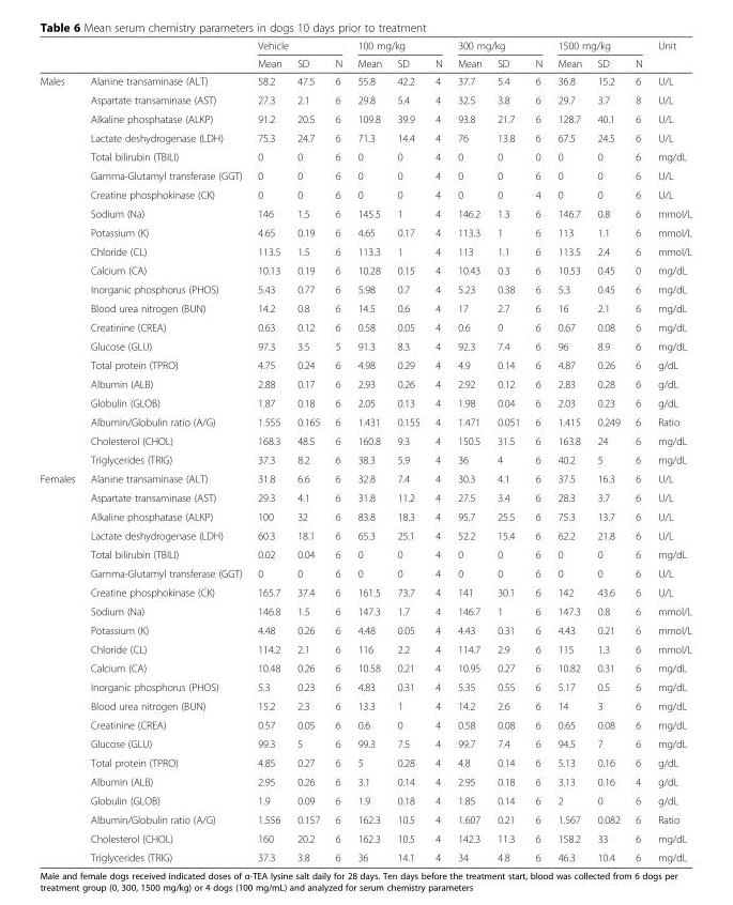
<table><thead><tr><td rowspan="2"></td><td rowspan="2"></td><td colspan="3">Vehicle</td><td colspan="3">100 mg/kg</td><td colspan="3">300 mg/kg</td><td colspan="3">1500 mg/kg</td><td rowspan="2">Unit</td></tr><tr><td>Mean</td><td>SD</td><td>N</td><td>Mean</td><td>SD</td><td>N</td><td>Mean</td><td>SD</td><td>N</td><td>Mean</td><td>SD</td><td>N</td></tr></thead><tbody><tr><td rowspan="21">Males</td><td>Alanine transaminase (ALT)</td><td>58.2</td><td>47.5</td><td>6</td><td>55.8</td><td>42.2</td><td>4</td><td>37.7</td><td>5.4</td><td>6</td><td>36.8</td><td>15.2</td><td>6</td><td>U/L</td></tr><tr><td>Aspartate transaminase (AST)</td><td>27.3</td><td>2.1</td><td>6</td><td>29.8</td><td>5.4</td><td>4</td><td>32.5</td><td>3.8</td><td>6</td><td>29.7</td><td>3.7</td><td>8</td><td>U/L</td></tr><tr><td>Alkaline phosphatase (ALKP)</td><td>91.2</td><td>20.5</td><td>6</td><td>109.8</td><td>39.9</td><td>4</td><td>93.8</td><td>21.7</td><td>6</td><td>128.7</td><td>40.1</td><td>6</td><td>U/L</td></tr><tr><td>Lactate deshydrogenase (LDH)</td><td>75.3</td><td>24.7</td><td>6</td><td>71.3</td><td>14.4</td><td>4</td><td>76</td><td>13.8</td><td>6</td><td>67.5</td><td>24.5</td><td>6</td><td>U/L</td></tr><tr><td>Total bilirubin (TBILI)</td><td>0</td><td>0</td><td>6</td><td>0</td><td>0</td><td>4</td><td>0</td><td>0</td><td>0</td><td>0</td><td>0</td><td>6</td><td>mg/dL</td></tr><tr><td>Gamma-Glutamyl transferase (GGT)</td><td>0</td><td>0</td><td>6</td><td>0</td><td>0</td><td>4</td><td>0</td><td>0</td><td>6</td><td>0</td><td>0</td><td>6</td><td>U/L</td></tr><tr><td>Creatine phosphokinase (CK)</td><td>0</td><td>0</td><td>6</td><td>0</td><td>0</td><td>4</td><td>0</td><td>0</td><td>4</td><td>0</td><td>0</td><td>6</td><td>U/L</td></tr><tr><td>Sodium (Na)</td><td>146</td><td>1.5</td><td>6</td><td>145.5</td><td>1</td><td>4</td><td>146.2</td><td>1.3</td><td>6</td><td>146.7</td><td>0.8</td><td>6</td><td>mmol/L</td></tr><tr><td>Potassium (K)</td><td>4.65</td><td>0.19</td><td>6</td><td>4.65</td><td>0.17</td><td>4</td><td>113.3</td><td>1</td><td>6</td><td>113</td><td>1.1</td><td>6</td><td>mmol/L</td></tr><tr><td>Chloride (CL)</td><td>113.5</td><td>1.5</td><td>6</td><td>113.3</td><td>1</td><td>4</td><td>113</td><td>1.1</td><td>6</td><td>113.5</td><td>2.4</td><td>6</td><td>mmol/L</td></tr><tr><td>Calcium (CA)</td><td>10.13</td><td>0.19</td><td>6</td><td>10.28</td><td>0.15</td><td>4</td><td>10.43</td><td>0.3</td><td>6</td><td>10.53</td><td>0.45</td><td>0</td><td>mg/dL</td></tr><tr><td>Inorganic phosphorus (PHOS)</td><td>5.43</td><td>0.77</td><td>6</td><td>5.98</td><td>0.7</td><td>4</td><td>5.23</td><td>0.38</td><td>6</td><td>5.3</td><td>0.45</td><td>6</td><td>mg/dL</td></tr><tr><td>Blood urea nitrogen (BUN)</td><td>14.2</td><td>0.8</td><td>6</td><td>14.5</td><td>0.6</td><td>4</td><td>17</td><td>2.7</td><td>6</td><td>16</td><td>2.1</td><td>6</td><td>mg/dL</td></tr><tr><td>Creatinine (CREA)</td><td>0.63</td><td>0.12</td><td>6</td><td>0.58</td><td>0.05</td><td>4</td><td>0.6</td><td>0</td><td>6</td><td>0.67</td><td>0.08</td><td>6</td><td>mg/dL</td></tr><tr><td>Glucose (GLU)</td><td>97.3</td><td>3.5</td><td>5</td><td>91.3</td><td>8.3</td><td>4</td><td>92.3</td><td>7.4</td><td>6</td><td>96</td><td>8.9</td><td>6</td><td>mg/dL</td></tr><tr><td>Total protein (TPRO)</td><td>4.75</td><td>0.24</td><td>6</td><td>4.98</td><td>0.29</td><td>4</td><td>4.9</td><td>0.14</td><td>6</td><td>4.87</td><td>0.26</td><td>6</td><td>g/dL</td></tr><tr><td>Albumin (ALB)</td><td>2.88</td><td>0.17</td><td>6</td><td>2.93</td><td>0.26</td><td>4</td><td>2.92</td><td>0.12</td><td>6</td><td>2.83</td><td>0.28</td><td>6</td><td>g/dL</td></tr><tr><td>Globulin (GLOB)</td><td>1.87</td><td>0.18</td><td>6</td><td>2.05</td><td>0.13</td><td>4</td><td>1.98</td><td>0.04</td><td>6</td><td>2.03</td><td>0.23</td><td>6</td><td>g/dL</td></tr><tr><td>Albumin/Globulin ratio (A/G)</td><td>1.555</td><td>0.165</td><td>6</td><td>1.431</td><td>0.155</td><td>4</td><td>1.471</td><td>0.051</td><td>6</td><td>1.415</td><td>0.249</td><td>6</td><td>Ratio</td></tr><tr><td>Cholesterol (CHOL)</td><td>168.3</td><td>48.5</td><td>6</td><td>160.8</td><td>9.3</td><td>4</td><td>150.5</td><td>31.5</td><td>6</td><td>163.8</td><td>24</td><td>6</td><td>mg/dL</td></tr><tr><td>Triglycerides (TRIG)</td><td>37.3</td><td>8.2</td><td>6</td><td>38.3</td><td>5.9</td><td>4</td><td>36</td><td>4</td><td>6</td><td>40.2</td><td>5</td><td>6</td><td>mg/dL</td></tr><tr><td rowspan="21">Females</td><td>Alanine transaminase (ALT)</td><td>31.8</td><td>6.6</td><td>6</td><td>32.8</td><td>7.4</td><td>4</td><td>30.3</td><td>4.1</td><td>6</td><td>37.5</td><td>16.3</td><td>6</td><td>U/L</td></tr><tr><td>Aspartate transaminase (AST)</td><td>29.3</td><td>4.1</td><td>6</td><td>31.8</td><td>11.2</td><td>4</td><td>27.5</td><td>3.4</td><td>6</td><td>28.3</td><td>3.7</td><td>6</td><td>U/L</td></tr><tr><td>Alkaline phosphatase (ALKP)</td><td>100</td><td>32</td><td>6</td><td>83.8</td><td>18.3</td><td>4</td><td>95.7</td><td>25.5</td><td>6</td><td>75.3</td><td>13.7</td><td>6</td><td>U/L</td></tr><tr><td>Lactate deshydrogenase (LDH)</td><td>60.3</td><td>18.1</td><td>6</td><td>65.3</td><td>25.1</td><td>4</td><td>52.2</td><td>15.4</td><td>6</td><td>62.2</td><td>21.8</td><td>6</td><td>U/L</td></tr><tr><td>Total bilirubin (TBILI)</td><td>0.02</td><td>0.04</td><td>6</td><td>0</td><td>0</td><td>4</td><td>0</td><td>0</td><td>6</td><td>0</td><td>0</td><td>6</td><td>mg/dL</td></tr><tr><td>Gamma-Glutamyl transferase (GGT)</td><td>0</td><td>0</td><td>6</td><td>0</td><td>0</td><td>4</td><td>0</td><td>0</td><td>6</td><td>0</td><td>0</td><td>6</td><td>U/L</td></tr><tr><td>Creatine phosphokinase (CK)</td><td>165.7</td><td>37.4</td><td>6</td><td>161.5</td><td>73.7</td><td>4</td><td>141</td><td>30.1</td><td>6</td><td>142</td><td>43.6</td><td>6</td><td>U/L</td></tr><tr><td>Sodium (Na)</td><td>146.8</td><td>1.5</td><td>6</td><td>147.3</td><td>1.7</td><td>4</td><td>146.7</td><td>1</td><td>6</td><td>147.3</td><td>0.8</td><td>6</td><td>mmol/L</td></tr><tr><td>Potassium (K)</td><td>4.48</td><td>0.26</td><td>6</td><td>4.48</td><td>0.05</td><td>4</td><td>4.43</td><td>0.31</td><td>6</td><td>4.43</td><td>0.21</td><td>6</td><td>mmol/L</td></tr><tr><td>Chloride (CL)</td><td>114.2</td><td>2.1</td><td>6</td><td>116</td><td>2.2</td><td>4</td><td>114.7</td><td>2.9</td><td>6</td><td>115</td><td>1.3</td><td>6</td><td>mmol/L</td></tr><tr><td>Calcium (CA)</td><td>10.48</td><td>0.26</td><td>6</td><td>10.58</td><td>0.21</td><td>4</td><td>10.95</td><td>0.27</td><td>6</td><td>10.82</td><td>0.31</td><td>6</td><td>mg/dL</td></tr><tr><td>Inorganic phosphorus (PHOS)</td><td>5.3</td><td>0.23</td><td>6</td><td>4.83</td><td>0.31</td><td>4</td><td>5.35</td><td>0.55</td><td>6</td><td>5.17</td><td>0.5</td><td>6</td><td>mg/dL</td></tr><tr><td>Blood urea nitrogen (BUN)</td><td>15.2</td><td>2.3</td><td>6</td><td>13.3</td><td>1</td><td>4</td><td>14.2</td><td>2.6</td><td>6</td><td>14</td><td>3</td><td>6</td><td>mg/dL</td></tr><tr><td>Creatinine (CREA)</td><td>0.57</td><td>0.05</td><td>6</td><td>0.6</td><td>0</td><td>4</td><td>0.58</td><td>0.08</td><td>6</td><td>0.65</td><td>0.08</td><td>6</td><td>mg/dL</td></tr><tr><td>Glucose (GLU)</td><td>99.3</td><td>5</td><td>6</td><td>99.3</td><td>7.5</td><td>4</td><td>99.7</td><td>7.4</td><td>6</td><td>94.5</td><td>7</td><td>6</td><td>mg/dL</td></tr><tr><td>Total protein (TPRO)</td><td>4.85</td><td>0.27</td><td>6</td><td>5</td><td>0.28</td><td>4</td><td>4.8</td><td>0.14</td><td>6</td><td>5.13</td><td>0.16</td><td>6</td><td>g/dL</td></tr><tr><td>Albumin (ALB)</td><td>2.95</td><td>0.26</td><td>6</td><td>3.1</td><td>0.14</td><td>4</td><td>2.95</td><td>0.18</td><td>6</td><td>3.13</td><td>0.16</td><td>4</td><td>g/dL</td></tr><tr><td>Globulin (GLOB)</td><td>1.9</td><td>0.09</td><td>6</td><td>1.9</td><td>0.18</td><td>4</td><td>1.85</td><td>0.14</td><td>6</td><td>2</td><td>0</td><td>6</td><td>g/dL</td></tr><tr><td>Albumin/Globulin ratio (A/G)</td><td>1.556</td><td>0.157</td><td>6</td><td>162.3</td><td>10.5</td><td>4</td><td>1.607</td><td>0.21</td><td>6</td><td>1.567</td><td>0.082</td><td>6</td><td>Ratio</td></tr><tr><td>Cholesterol (CHOL)</td><td>160</td><td>20.2</td><td>6</td><td>162.3</td><td>10.5</td><td>4</td><td>142.3</td><td>11.3</td><td>6</td><td>158.2</td><td>33</td><td>6</td><td>mg/dL</td></tr><tr><td>Triglycerides (TRIG)</td><td>37.3</td><td>3.8</td><td>6</td><td>36</td><td>14.1</td><td>4</td><td>34</td><td>4.8</td><td>6</td><td>46.3</td><td>10.4</td><td>6</td><td>mg/dL</td></tr></tbody></table>